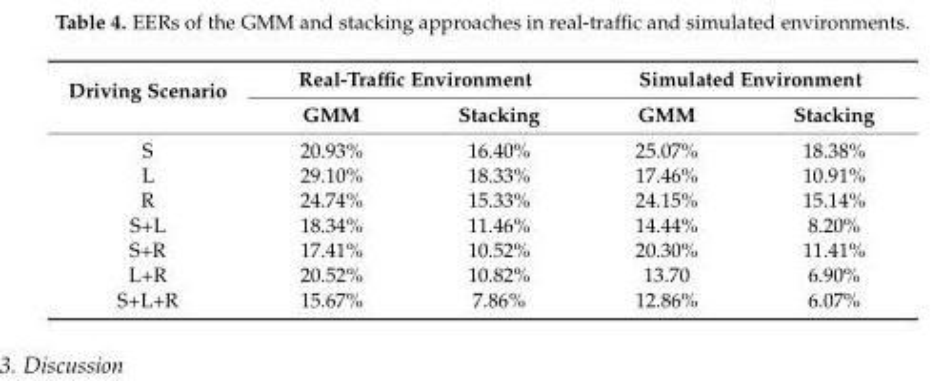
<table><thead><tr><td rowspan="2">Driving Scenario</td><td colspan="2">Real-Traffic Environment</td><td colspan="2">Simulated Environment</td></tr><tr><td>GMM</td><td>Stacking</td><td>GMM</td><td>Stacking</td></tr></thead><tbody><tr><td>S</td><td>20.93%</td><td>16.40%</td><td>25.07%</td><td>18.38%</td></tr><tr><td>L</td><td>29.10%</td><td>18.33%</td><td>17.46%</td><td>10.91%</td></tr><tr><td>R</td><td>24.74%</td><td>15.33%</td><td>24.15%</td><td>15.14%</td></tr><tr><td>S+L</td><td>18.34%</td><td>11.46%</td><td>14.44%</td><td>8.20%</td></tr><tr><td>S+R</td><td>17.41%</td><td>10.52%</td><td>20.30%</td><td>11.41%</td></tr><tr><td>L+R</td><td>20.52%</td><td>10.82%</td><td>13.70</td><td>6.90%</td></tr><tr><td>S+L+R</td><td>15.67%</td><td>7.86%</td><td>12.86%</td><td>6.07%</td></tr></tbody></table>